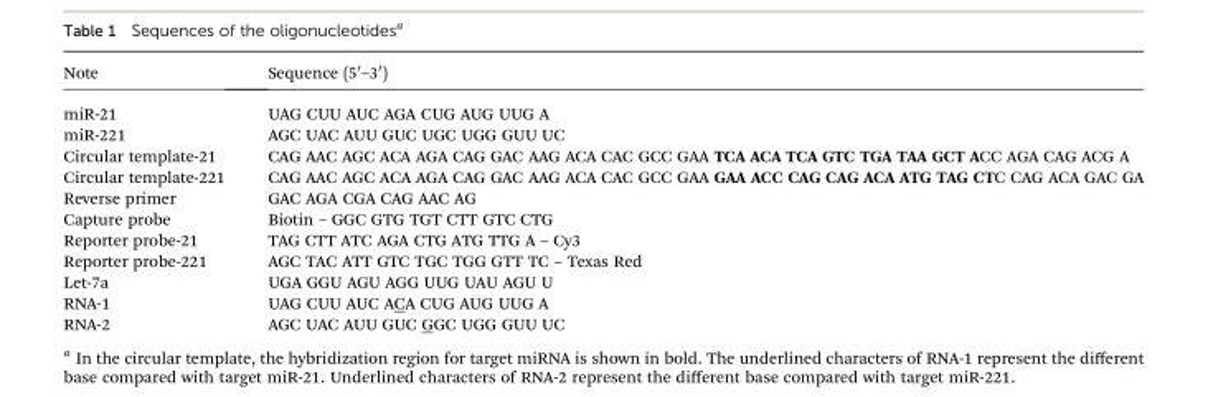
<table><thead><tr><td>Note</td><td>Sequence (5′–3′)</td></tr></thead><tbody><tr><td>miR-21</td><td>UAG CUU AUC AGA CUG AUG UUG A</td></tr><tr><td>miR-221</td><td>AGC UAC AUU GUC UGC UGG GUU UC</td></tr><tr><td>Circular template-21</td><td>CAG AAC AGC ACA AGA CAG GAC AAG ACA CAC GCC GAA TCA ACA TCA GTC TGA TAA GCT ACC AGA CAG ACG A</td></tr><tr><td>Circular template-221</td><td>CAG AAC AGC ACA AGA CAG GAC AAG ACA CAC GCC GAA GAA ACC CAG CAG ACA ATG TAG CTC CAG ACA GAC GA</td></tr><tr><td>Reverse primer</td><td>GAC AGA CGA CAG AAC AG</td></tr><tr><td>Capture probe</td><td>Biotin – GGC GTG TGT CTT GTC CTG</td></tr><tr><td>Reporter probe-21</td><td>TAG CTT ATC AGA CTG ATG TTG A – Cy3</td></tr><tr><td>Reporter probe-221</td><td>AGC TAC ATT GTC TGC TGG GTT TC – Texas Red</td></tr><tr><td>Let-7a</td><td>UGA GGU AGU AGG UUG UAU AGU U</td></tr><tr><td>RNA-1</td><td>UAG CUU AUC ACA CUG AUG UUG A</td></tr><tr><td>RNA-2</td><td>AGC UAC AUU GUC GGC UGG GUU UC</td></tr></tbody></table>